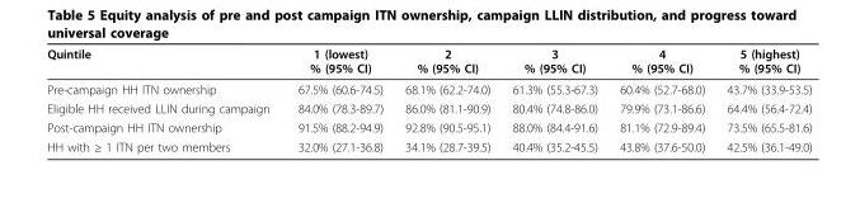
<table><thead><tr><td>Quintile</td><td>1 (lowest) % (95% CI)</td><td>2 % (95% CI)</td><td>3 % (95% CI)</td><td>4 % (95% CI)</td><td>5 (highest) % (95% CI)</td></tr></thead><tbody><tr><td>Pre-campaign HH ITN ownership</td><td>67.5% (60.6-74.5)</td><td>68.1% (62.2-74.0)</td><td>61.3% (55.3-67.3)</td><td>60.4% (52.7-68.0)</td><td>43.7% (33.9-53.5)</td></tr><tr><td>Eligible HH received LLIN during campaign</td><td>84.0% (78.3-89.7)</td><td>86.0% (81.1-90.9)</td><td>80.4% (74.8-86.0)</td><td>79.9% (73.1-86.6)</td><td>64.4% (56.4-72.4)</td></tr><tr><td>Post-campaign HH ITN ownership</td><td>91.5% (88.2-94.9)</td><td>92.8% (90.5-95.1)</td><td>88.0% (84.4-91.6)</td><td>81.1% (72.9-89.4)</td><td>73.5% (65.5-81.6)</td></tr><tr><td>HH with ≥ 1 ITN per two members</td><td>32.0% (27.1-36.8)</td><td>34.1% (28.7-39.5)</td><td>40.4% (35.2-45.5)</td><td>43.8% (37.6-50.0)</td><td>42.5% (36.1-49.0)</td></tr></tbody></table>